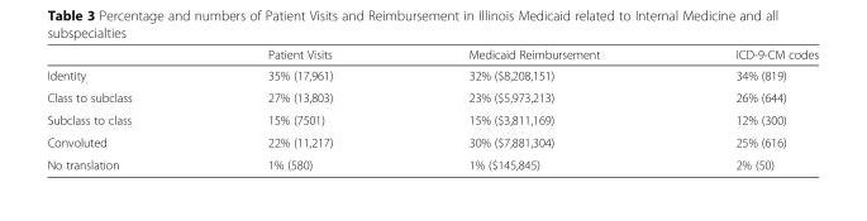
<table><thead><tr><td></td><td>Patient Visits</td><td>Medicaid Reimbursement</td><td>ICD-9-CM codes</td></tr></thead><tbody><tr><td>Identity</td><td>35% (17,961)</td><td>32% ($8,208,151)</td><td>34% (819)</td></tr><tr><td>Class to subclass</td><td>27% (13,803)</td><td>23% ($5,973,213)</td><td>26% (644)</td></tr><tr><td>Subclass to class</td><td>15% (7501)</td><td>15% ($3,811,169)</td><td>12% (300)</td></tr><tr><td>Convoluted</td><td>22% (11,217)</td><td>30% ($7,881,304)</td><td>25% (616)</td></tr><tr><td>No translation</td><td>1% (580)</td><td>1% ($145,845)</td><td>2% (50)</td></tr></tbody></table>